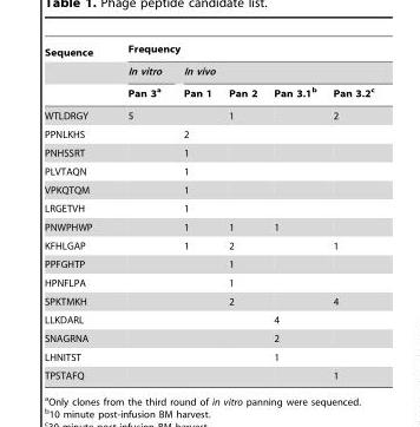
<table><thead><tr><td rowspan="3">Sequence</td><td colspan="5">Frequency</td></tr><tr><td rowspan="2">In vitro Pan 3<sup>a</sup></td><td colspan="4">In vivo</td></tr><tr><td>Pan 1</td><td>Pan 2</td><td>Pan 3.1<sup>b</sup></td><td>Pan 3.2<sup>c</sup></td></tr></thead><tbody><tr><td>WTLDRGY</td><td>5</td><td></td><td>1</td><td></td><td>2</td></tr><tr><td>PPNLKHS</td><td></td><td>2</td><td></td><td></td><td></td></tr><tr><td>PNHSSRT</td><td></td><td>1</td><td></td><td></td><td></td></tr><tr><td>PLVTAQN</td><td></td><td>1</td><td></td><td></td><td></td></tr><tr><td>VPKQTQM</td><td></td><td>1</td><td></td><td></td><td></td></tr><tr><td>LRGETVH</td><td></td><td>1</td><td></td><td></td><td></td></tr><tr><td>PNWPHWP</td><td></td><td>1</td><td>1</td><td>1</td><td></td></tr><tr><td>KFHLGAP</td><td></td><td>1</td><td>2</td><td></td><td>1</td></tr><tr><td>PPFGHTP</td><td></td><td></td><td>1</td><td></td><td></td></tr><tr><td>HPNFLPA</td><td></td><td></td><td>1</td><td></td><td></td></tr><tr><td>SPKTMKH</td><td></td><td></td><td>2</td><td></td><td>4</td></tr><tr><td>LLKDARL</td><td></td><td></td><td></td><td>4</td><td></td></tr><tr><td>SNAGRNA</td><td></td><td></td><td></td><td>2</td><td></td></tr><tr><td>LHNITST</td><td></td><td></td><td></td><td>1</td><td></td></tr><tr><td>TPSTAFQ</td><td></td><td></td><td></td><td></td><td>1</td></tr></tbody></table>